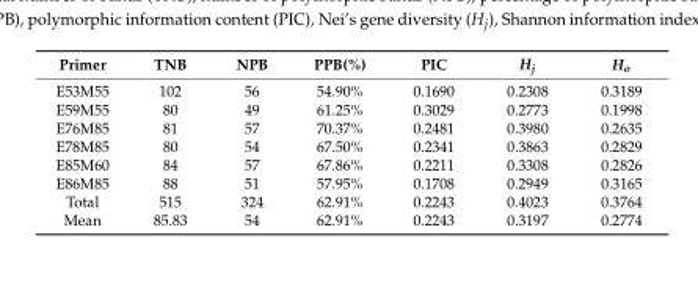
<table><thead><tr><td>Primer</td><td>TNB</td><td>NPB</td><td>PPB(%)</td><td>PIC</td><td>H<sub>j</sub></td><td>H<sub>o</sub></td></tr></thead><tbody><tr><td>E53M55</td><td>102</td><td>56</td><td>54.90%</td><td>0.1690</td><td>0.2308</td><td>0.3189</td></tr><tr><td>E59M55</td><td>80</td><td>49</td><td>61.25%</td><td>0.3029</td><td>0.2773</td><td>0.1998</td></tr><tr><td>E76M85</td><td>81</td><td>57</td><td>70.37%</td><td>0.2481</td><td>0.3980</td><td>0.2635</td></tr><tr><td>E78M85</td><td>80</td><td>54</td><td>67.50%</td><td>0.2341</td><td>0.3863</td><td>0.2829</td></tr><tr><td>E85M60</td><td>84</td><td>57</td><td>67.86%</td><td>0.2211</td><td>0.3308</td><td>0.2826</td></tr><tr><td>E86M85</td><td>88</td><td>51</td><td>57.95%</td><td>0.1708</td><td>0.2949</td><td>0.3165</td></tr><tr><td>Total</td><td>515</td><td>324</td><td>62.91%</td><td>0.2243</td><td>0.4023</td><td>0.3764</td></tr><tr><td>Mean</td><td>85.83</td><td>54</td><td>62.91%</td><td>0.2243</td><td>0.3197</td><td>0.2774</td></tr></tbody></table>